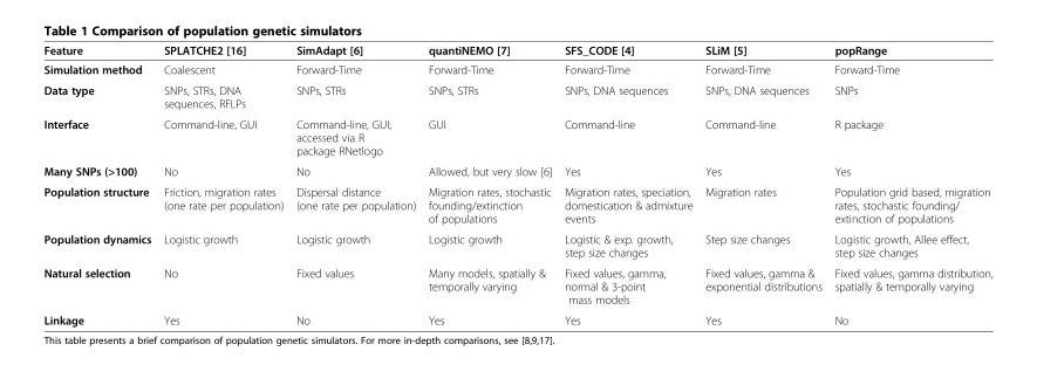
<table><thead><tr><td>Feature</td><td>SPLATCHE2 [16]</td><td>SimAdapt [6]</td><td>quantiNEMO [7]</td><td>SFS_CODE [4]</td><td>SLiM [5]</td><td>popRange</td></tr></thead><tbody><tr><td>Simulation method</td><td>Coalescent</td><td>Forward-Time</td><td>Forward-Time</td><td>Forward-Time</td><td>Forward-Time</td><td>Forward-Time</td></tr><tr><td>Data type</td><td>SNPs, STRs, DNA sequences, RFLPs</td><td>SNPs, STRs</td><td>SNPs, STRs</td><td>SNPs, DNA sequences</td><td>SNPs, DNA sequences</td><td>SNPs</td></tr><tr><td>Interface</td><td>Command-line, GUI</td><td>Command-line, GUI, accessed via R package RNetlogo</td><td>GUI</td><td>Command-line</td><td>Command-line</td><td>R package</td></tr><tr><td>Many SNPs (&gt;100)</td><td>No</td><td>No</td><td>Allowed, but very slow [6]</td><td>Yes</td><td>Yes</td><td>Yes</td></tr><tr><td>Population structure</td><td>Friction, migration rates (one rate per population)</td><td>Dispersal distance (one rate per population)</td><td>Migration rates, stochastic founding/extinction of populations</td><td>Migration rates, speciation, domestication &amp; admixture events</td><td>Migration rates</td><td>Population grid based, migration rates, stochastic founding/ extinction of populations</td></tr><tr><td>Population dynamics</td><td>Logistic growth</td><td>Logistic growth</td><td>Logistic growth</td><td>Logistic &amp; exp. growth, step size changes</td><td>Step size changes</td><td>Logistic growth, Allee effect, step size changes</td></tr><tr><td>Natural selection</td><td>No</td><td>Fixed values</td><td>Many models, spatially &amp; temporally varying</td><td>Fixed values, gamma, normal &amp; 3-point mass models</td><td>Fixed values, gamma &amp; exponential distributions</td><td>Fixed values, gamma distribution, spatially &amp; temporally varying</td></tr><tr><td>Linkage</td><td>Yes</td><td>No</td><td>Yes</td><td>Yes</td><td>Yes</td><td>No</td></tr></tbody></table>